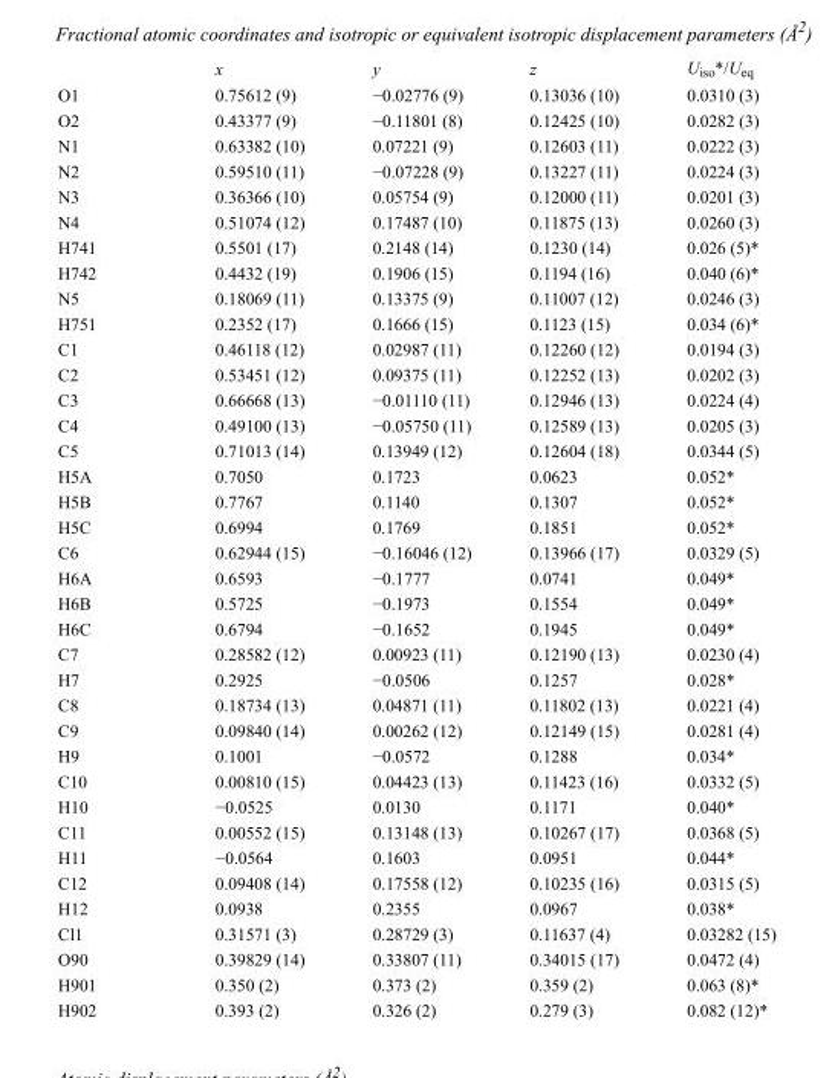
<table><thead><tr><td></td><td>x</td><td>y</td><td>z</td><td>U<sub>iso</sub>*/U<sub>eq</sub></td></tr></thead><tbody><tr><td>O1</td><td>0.75612 (9)</td><td>−0.02776 (9)</td><td>0.13036 (10)</td><td>0.0310 (3)</td></tr><tr><td>O2</td><td>0.43377 (9)</td><td>−0.11801 (8)</td><td>0.12425 (10)</td><td>0.0282 (3)</td></tr><tr><td>N1</td><td>0.63382 (10)</td><td>0.07221 (9)</td><td>0.12603 (11)</td><td>0.0222 (3)</td></tr><tr><td>N2</td><td>0.59510 (11)</td><td>−0.07228 (9)</td><td>0.13227 (11)</td><td>0.0224 (3)</td></tr><tr><td>N3</td><td>0.36366 (10)</td><td>0.05754 (9)</td><td>0.12000 (11)</td><td>0.0201 (3)</td></tr><tr><td>N4</td><td>0.51074 (12)</td><td>0.17487 (10)</td><td>0.11875 (13)</td><td>0.0260 (3)</td></tr><tr><td>H741</td><td>0.5501 (17)</td><td>0.2148 (14)</td><td>0.1230 (14)</td><td>0.026 (5)*</td></tr><tr><td>H742</td><td>0.4432 (19)</td><td>0.1906 (15)</td><td>0.1194 (16)</td><td>0.040 (6)*</td></tr><tr><td>N5</td><td>0.18069 (11)</td><td>0.13375 (9)</td><td>0.11007 (12)</td><td>0.0246 (3)</td></tr><tr><td>H751</td><td>0.2352 (17)</td><td>0.1666 (15)</td><td>0.1123 (15)</td><td>0.034 (6)*</td></tr><tr><td>C1</td><td>0.46118 (12)</td><td>0.02987 (11)</td><td>0.12260 (12)</td><td>0.0194 (3)</td></tr><tr><td>C2</td><td>0.53451 (12)</td><td>0.09375 (11)</td><td>0.12252 (13)</td><td>0.0202 (3)</td></tr><tr><td>C3</td><td>0.66668 (13)</td><td>−0.01110 (11)</td><td>0.12946 (13)</td><td>0.0224 (4)</td></tr><tr><td>C4</td><td>0.49100 (13)</td><td>−0.05750 (11)</td><td>0.12589 (13)</td><td>0.0205 (3)</td></tr><tr><td>C5</td><td>0.71013 (14)</td><td>0.13949 (12)</td><td>0.12604 (18)</td><td>0.0344 (5)</td></tr><tr><td>H5A</td><td>0.7050</td><td>0.1723</td><td>0.0623</td><td>0.052*</td></tr><tr><td>H5B</td><td>0.7767</td><td>0.1140</td><td>0.1307</td><td>0.052*</td></tr><tr><td>H5C</td><td>0.6994</td><td>0.1769</td><td>0.1851</td><td>0.052*</td></tr><tr><td>C6</td><td>0.62944 (15)</td><td>−0.16046 (12)</td><td>0.13966 (17)</td><td>0.0329 (5)</td></tr><tr><td>H6A</td><td>0.6593</td><td>−0.1777</td><td>0.0741</td><td>0.049*</td></tr><tr><td>H6B</td><td>0.5725</td><td>−0.1973</td><td>0.1554</td><td>0.049*</td></tr><tr><td>H6C</td><td>0.6794</td><td>−0.1652</td><td>0.1945</td><td>0.049*</td></tr><tr><td>C7</td><td>0.28582 (12)</td><td>0.00923 (11)</td><td>0.12190 (13)</td><td>0.0230 (4)</td></tr><tr><td>H7</td><td>0.2925</td><td>−0.0506</td><td>0.1257</td><td>0.028*</td></tr><tr><td>C8</td><td>0.18734 (13)</td><td>0.04871 (11)</td><td>0.11802 (13)</td><td>0.0221 (4)</td></tr><tr><td>C9</td><td>0.09840 (14)</td><td>0.00262 (12)</td><td>0.12149 (15)</td><td>0.0281 (4)</td></tr><tr><td>H9</td><td>0.1001</td><td>−0.0572</td><td>0.1288</td><td>0.034*</td></tr><tr><td>C10</td><td>0.00810 (15)</td><td>0.04423 (13)</td><td>0.11423 (16)</td><td>0.0332 (5)</td></tr><tr><td>H10</td><td>−0.0525</td><td>0.0130</td><td>0.1171</td><td>0.040*</td></tr><tr><td>C11</td><td>0.00552 (15)</td><td>0.13148 (13)</td><td>0.10267 (17)</td><td>0.0368 (5)</td></tr><tr><td>H11</td><td>−0.0564</td><td>0.1603</td><td>0.0951</td><td>0.044*</td></tr><tr><td>C12</td><td>0.09408 (14)</td><td>0.17558 (12)</td><td>0.10235 (16)</td><td>0.0315 (5)</td></tr><tr><td>H12</td><td>0.0938</td><td>0.2355</td><td>0.0967</td><td>0.038*</td></tr><tr><td>Cl1</td><td>0.31571 (3)</td><td>0.28729 (3)</td><td>0.11637 (4)</td><td>0.03282 (15)</td></tr><tr><td>O90</td><td>0.39829 (14)</td><td>0.33807 (11)</td><td>0.34015 (17)</td><td>0.0472 (4)</td></tr><tr><td>H901</td><td>0.350 (2)</td><td>0.373 (2)</td><td>0.359 (2)</td><td>0.063 (8)*</td></tr><tr><td>H902</td><td>0.393 (2)</td><td>0.326 (2)</td><td>0.279 (3)</td><td>0.082 (12)*</td></tr></tbody></table>